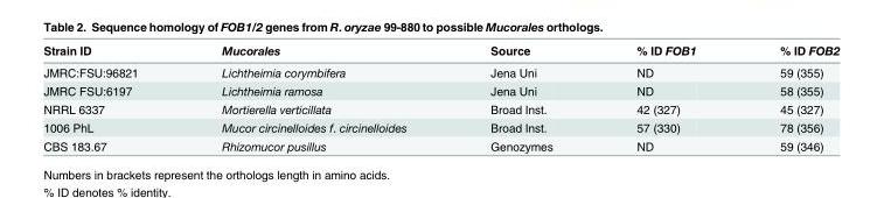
<table><thead><tr><td>Strain ID</td><td>Mucorales</td><td>Source</td><td>% ID FOB1</td><td>% ID FOB2</td></tr></thead><tbody><tr><td>JMRC:FSU:96821</td><td>Lichtheimia corymbifera</td><td>Jena Uni</td><td>ND</td><td>59 (355)</td></tr><tr><td>JMRC FSU:6197</td><td>Lichtheimia ramosa</td><td>Jena Uni</td><td>ND</td><td>58 (355)</td></tr><tr><td>NRRL 6337</td><td>Mortierella verticillata</td><td>Broad Inst.</td><td>42 (327)</td><td>45 (327)</td></tr><tr><td>1006 PhL</td><td>Mucor circinelloides f. circinelloides</td><td>Broad Inst.</td><td>57 (330)</td><td>78 (356)</td></tr><tr><td>CBS 183.67</td><td>Rhizomucor pusillus</td><td>Genozymes</td><td>ND</td><td>59 (346)</td></tr></tbody></table>